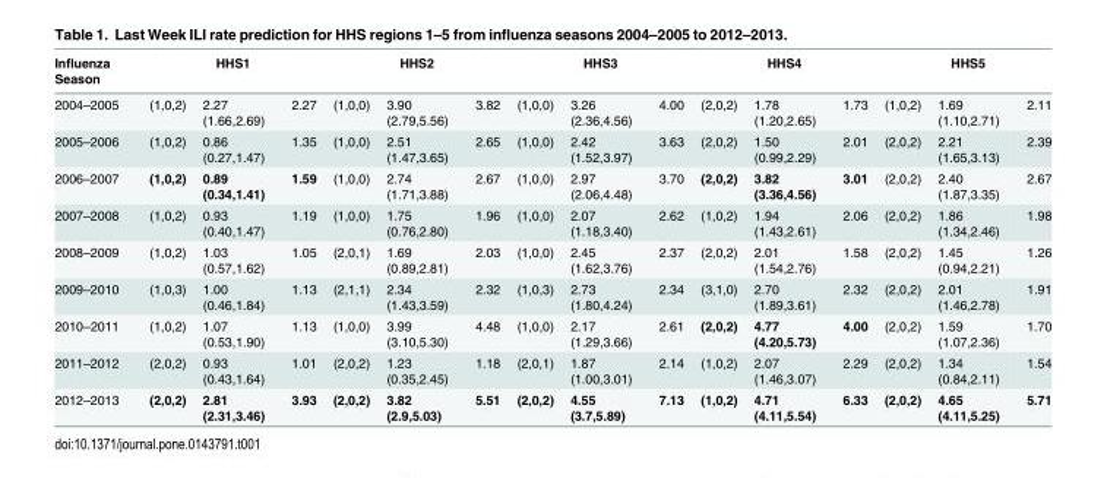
<table><thead><tr><td rowspan="2">Influenza Season 2004–2005</td><td colspan="3">HHS1</td><td colspan="3">HHS2</td><td colspan="3">HHS3</td><td colspan="3">HHS4</td><td colspan="3">HHS5</td></tr><tr><td>(1,0,2)</td><td>2.27 (1.66,2.69)</td><td>2.27</td><td>(1,0,0)</td><td>3.90 (2.79,5.56)</td><td>3.82</td><td>(1,0,0)</td><td>3.26 (2.36,4.56)</td><td>4.00</td><td>(2,0,2)</td><td>1.78 (1.20,2.65)</td><td>1.73</td><td>(1,0,2)</td><td>1.69 (1.10,2.71)</td><td>2.11</td></tr></thead><tbody><tr><td>2005–2006</td><td>(1,0,2)</td><td>0.86 (0.27,1.47)</td><td>1.35</td><td>(1,0,0)</td><td>2.51 (1.47,3.65)</td><td>2.65</td><td>(1,0,0)</td><td>2.42 (1.52,3.97)</td><td>3.63</td><td>(2,0,2)</td><td>1.50 (0.99,2.29)</td><td>2.01</td><td>(2,0,2)</td><td>2.21 (1.65,3.13)</td><td>2.39</td></tr><tr><td>2006–2007</td><td>(1,0,2)</td><td>0.89 (0.34,1.41)</td><td>1.59</td><td>(1,0,0)</td><td>2.74 (1.71,3.88)</td><td>2.67</td><td>(1,0,0)</td><td>2.97 (2.06,4.48)</td><td>3.70</td><td>(2,0,2)</td><td>3.82 (3.36,4.56)</td><td>3.01</td><td>(2,0,2)</td><td>2.40 (1.87,3.35)</td><td>2.67</td></tr><tr><td>2007–2008</td><td>(1,0,2)</td><td>0.93 (0.40,1.47)</td><td>1.19</td><td>(1,0,0)</td><td>1.75 (0.76,2.80)</td><td>1.96</td><td>(1,0,0)</td><td>2.07 (1.18,3.40)</td><td>2.62</td><td>(1,0,2)</td><td>1.94 (1.43,2.61)</td><td>2.06</td><td>(2,0,2)</td><td>1.86 (1.34,2.46)</td><td>1.98</td></tr><tr><td>2008–2009</td><td>(1,0,2)</td><td>1.03 (0.57,1.62)</td><td>1.05</td><td>(2,0,1)</td><td>1.69 (0.89,2.81)</td><td>2.03</td><td>(1,0,0)</td><td>2.45 (1.62,3.76)</td><td>2.37</td><td>(2,0,2)</td><td>2.01 (1.54,2.76)</td><td>1.58</td><td>(2,0,2)</td><td>1.45 (0.94,2.21)</td><td>1.26</td></tr><tr><td>2009–2010</td><td>(1,0,3)</td><td>1.00 (0.46,1.84)</td><td>1.13</td><td>(2,1,1)</td><td>2.34 (1.43,3.59)</td><td>2.32</td><td>(1,0,3)</td><td>2.73 (1.80,4.24)</td><td>2.34</td><td>(3,1,0)</td><td>2.70 (1.89,3.61)</td><td>2.32</td><td>(2,0,2)</td><td>2.01 (1.46,2.78)</td><td>1.91</td></tr><tr><td>2010–2011</td><td>(1,0,2)</td><td>1.07 (0.53,1.90)</td><td>1.13</td><td>(1,0,0)</td><td>3.99 (3.10,5.30)</td><td>4.48</td><td>(1,0,0)</td><td>2.17 (1.29,3.66)</td><td>2.61</td><td>(2,0,2)</td><td>4.77 (4.20,5.73)</td><td>4.00</td><td>(2,0,2)</td><td>1.59 (1.07,2.36)</td><td>1.70</td></tr><tr><td>2011–2012</td><td>(2,0,2)</td><td>0.93 (0.43,1.64)</td><td>1.01</td><td>(2,0,2)</td><td>1.23 (0.35,2.45)</td><td>1.18</td><td>(2,0,1)</td><td>1.87 (1.00,3.01)</td><td>2.14</td><td>(1,0,2)</td><td>2.07 (1.46,3.07)</td><td>2.29</td><td>(2,0,2)</td><td>1.34 (0.84,2.11)</td><td>1.54</td></tr><tr><td>2012–2013</td><td>(2,0,2)</td><td>2.81 (2.31,3.46)</td><td>3.93</td><td>(2,0,2)</td><td>3.82 (2.9,5.03)</td><td>5.51</td><td>(2,0,2)</td><td>4.55 (3.7,5.89)</td><td>7.13</td><td>(1,0,2)</td><td>4.71 (4.11,5.54)</td><td>6.33</td><td>(2,0,2)</td><td>4.65 (4.11,5.25)</td><td>5.71</td></tr></tbody></table>